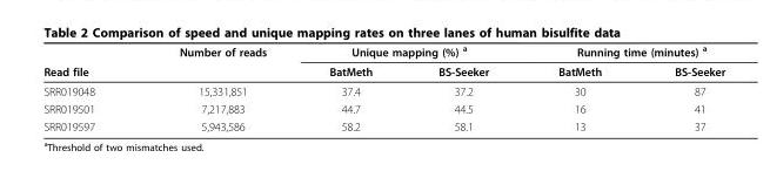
<table><thead><tr><td rowspan="2">Read file</td><td rowspan="2">Number of reads</td><td colspan="2">Unique mapping (%) <sup>a</sup></td><td colspan="2">Running time (minutes) <sup>a</sup></td></tr><tr><td>BatMeth</td><td>BS-Seeker</td><td>BatMeth</td><td>BS-Seeker</td></tr></thead><tbody><tr><td>SRR019048</td><td>15,331,851</td><td>37.4</td><td>37.2</td><td>30</td><td>87</td></tr><tr><td>SRR019501</td><td>7,217,883</td><td>44.7</td><td>44.5</td><td>16</td><td>41</td></tr><tr><td>SRR019597</td><td>5,943,586</td><td>58.2</td><td>58.1</td><td>13</td><td>37</td></tr></tbody></table>